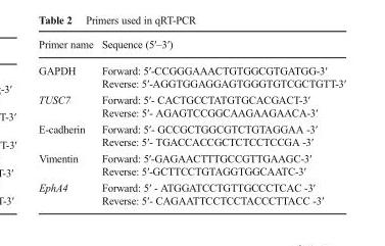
<table><thead><tr><td>Primer name</td><td>Sequence (5′–3′)</td></tr></thead><tbody><tr><td>GAPDH</td><td>Forward: 5′-CCGGGAAACTGTGGCGTGATGG-3′ Reverse: 5′-AGGTGGAGGAGTGGGTGTCGCTGTT-3′</td></tr><tr><td>TUSC7</td><td>Forward: 5′- CACTGCCTATGTGCACGACT-3′ Reverse: 5′- AGAGTCCGGCAAGAAGAACA-3′</td></tr><tr><td>E-cadherin</td><td>Forward: 5′- GCCGCTGGCGTCTGTAGGAA -3′ Reverse: 5′- TGACCACCGCTCTCCTCCGA -3′</td></tr><tr><td>Vimentin</td><td>Forward: 5′-GAGAACTTTGCCGTTGAAGC-3′ Reverse: 5′-GCTTCCTGTAGGTGGCAATC-3′</td></tr><tr><td>EphA4</td><td>Forward: 5′ - ATGGATCCTGTTGCCCTCAC -3′ Reverse: 5′- CAGAATTCCTCCTACCCTTACC -3′</td></tr></tbody></table>